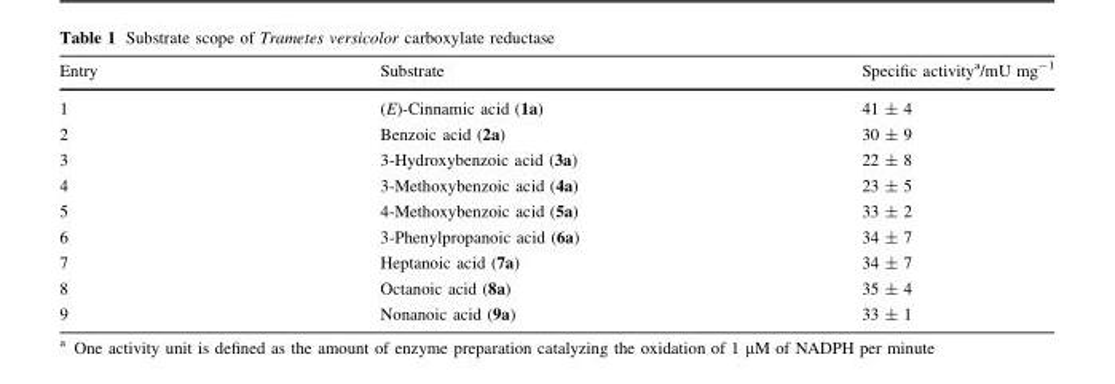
<table><thead><tr><td>Entry</td><td>Substrate</td><td>Specific activity<sup>a</sup>/mU mg<sup>-1</sup></td></tr></thead><tbody><tr><td>1</td><td>(E)-Cinnamic acid (1a)</td><td>41 ± 4</td></tr><tr><td>2</td><td>Benzoic acid (2a)</td><td>30 ± 9</td></tr><tr><td>3</td><td>3-Hydroxybenzoic acid (3a)</td><td>22 ± 8</td></tr><tr><td>4</td><td>3-Methoxybenzoic acid (4a)</td><td>23 ± 5</td></tr><tr><td>5</td><td>4-Methoxybenzoic acid (5a)</td><td>33 ± 2</td></tr><tr><td>6</td><td>3-Phenylpropanoic acid (6a)</td><td>34 ± 7</td></tr><tr><td>7</td><td>Heptanoic acid (7a)</td><td>34 ± 7</td></tr><tr><td>8</td><td>Octanoic acid (8a)</td><td>35 ± 4</td></tr><tr><td>9</td><td>Nonanoic acid (9a)</td><td>33 ± 1</td></tr></tbody></table>